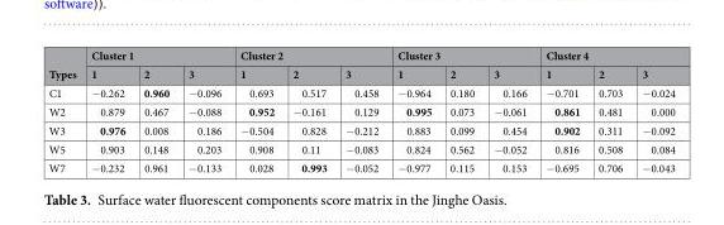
<table><thead><tr><td rowspan="2">Types</td><td colspan="3">Cluster 1</td><td colspan="3">Cluster 2</td><td colspan="3">Cluster 3</td><td colspan="3">Cluster 4</td></tr><tr><td>1</td><td>2</td><td>3</td><td>1</td><td>2</td><td>3</td><td>1</td><td>2</td><td>3</td><td>1</td><td>2</td><td>3</td></tr></thead><tbody><tr><td>C1</td><td>−0.262</td><td>0.960</td><td>−0.096</td><td>0.693</td><td>0.517</td><td>0.458</td><td>−0.964</td><td>0.180</td><td>0.166</td><td>−0.701</td><td>0.703</td><td>−0.024</td></tr><tr><td>W2</td><td>0.879</td><td>0.467</td><td>−0.088</td><td>0.952</td><td>−0.161</td><td>0.129</td><td>0.995</td><td>0.073</td><td>−0.061</td><td>0.861</td><td>0.481</td><td>0.000</td></tr><tr><td>W3</td><td>0.976</td><td>0.008</td><td>0.186</td><td>−0.504</td><td>0.828</td><td>−0.212</td><td>0.883</td><td>0.099</td><td>0.454</td><td>0.902</td><td>0.311</td><td>−0.092</td></tr><tr><td>W5</td><td>0.903</td><td>0.148</td><td>0.203</td><td>0.908</td><td>0.11</td><td>−0.083</td><td>0.824</td><td>0.562</td><td>−0.052</td><td>0.816</td><td>0.508</td><td>0.084</td></tr><tr><td>W7</td><td>−0.232</td><td>0.961</td><td>−0.133</td><td>0.028</td><td>0.993</td><td>−0.052</td><td>−0.977</td><td>0.115</td><td>0.153</td><td>−0.695</td><td>0.706</td><td>−0.043</td></tr></tbody></table>